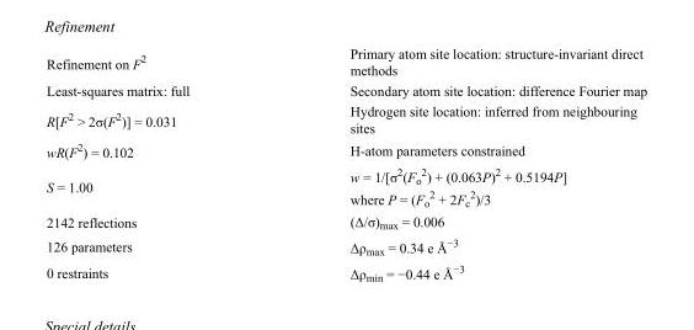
<table><tbody><tr><td>Refinement on F<sup>2</sup></td><td>Primary atom site location: structure-invariant direct methods</td></tr><tr><td>Least-squares matrix: full</td><td>Secondary atom site location: difference Fourier map</td></tr><tr><td>R[F<sup>2</sup> &gt; 2σ(F<sup>2</sup>)] = 0.031</td><td>Hydrogen site location: inferred from neighbouring sites</td></tr><tr><td>wR(F<sup>2</sup>) = 0.102</td><td>H-atom parameters constrained</td></tr><tr><td>S = 1.00</td><td>w = 1/[σ<sup>2</sup>(F<sub>o</sub> <sup>2</sup>) + (0.063P)<sup>2</sup> + 0.5194P] where P = (F<sub>o</sub> <sup>2</sup> + 2F<sub>c</sub> <sup>2</sup>)/3</td></tr><tr><td>2142 reflections</td><td>(Δ/σ)<sub>max</sub> = 0.006</td></tr><tr><td>126 parameters</td><td>Δρ<sub>max</sub> = 0.34 e Å<sup>−3</sup></td></tr><tr><td>0 restraints</td><td>Δρ<sub>min</sub> = −0.44 e Å<sup>−3</sup></td></tr></tbody></table>